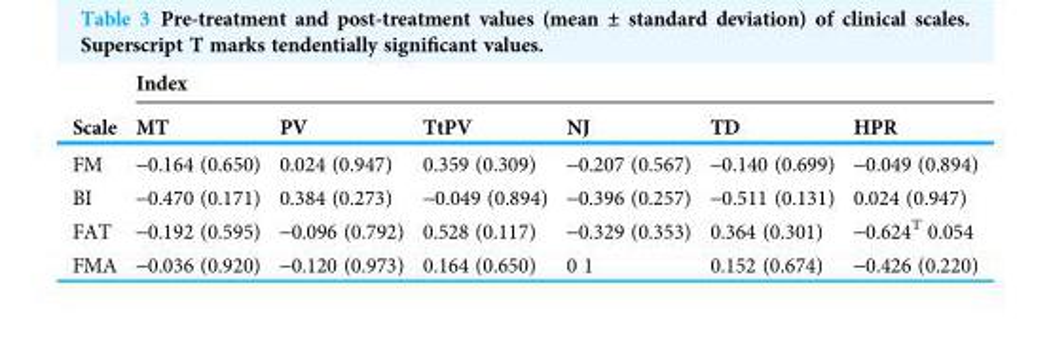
<table><thead><tr><td rowspan="2">Scale</td><td colspan="6">Index</td></tr><tr><td>MT</td><td>PV</td><td>TtPV</td><td>NJ</td><td>TD</td><td>HPR</td></tr></thead><tbody><tr><td>FM</td><td>-0.164 (0.650)</td><td>0.024 (0.947)</td><td>0.359 (0.309)</td><td>-0.207 (0.567)</td><td>-0.140 (0.699)</td><td>-0.049 (0.894)</td></tr><tr><td>BI</td><td>-0.470 (0.171)</td><td>0.384 (0.273)</td><td>-0.049 (0.894)</td><td>-0.396 (0.257)</td><td>-0.511 (0.131)</td><td>0.024 (0.947)</td></tr><tr><td>FAT</td><td>-0.192 (0.595)</td><td>-0.096 (0.792)</td><td>0.528 (0.117)</td><td>-0.329 (0.353)</td><td>0.364 (0.301)</td><td>-0.624<sup>T</sup> 0.054</td></tr><tr><td>FMA</td><td>-0.036 (0.920)</td><td>-0.120 (0.973)</td><td>0.164 (0.650)</td><td>0 1</td><td>0.152 (0.674)</td><td>-0.426 (0.220)</td></tr></tbody></table>